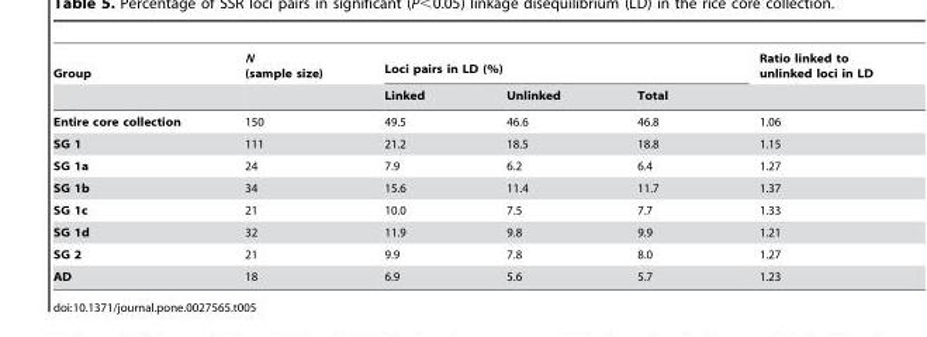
<table><thead><tr><td rowspan="2">Group</td><td rowspan="2">N (sample size)</td><td colspan="3">Loci pairs in LD (%)</td><td rowspan="2">Ratio linked to unlinked loci in LD</td></tr><tr><td>Linked</td><td>Unlinked</td><td>Total</td></tr></thead><tbody><tr><td>Entire core collection</td><td>150</td><td>49.5</td><td>46.6</td><td>46.8</td><td>1.06</td></tr><tr><td>SG 1</td><td>111</td><td>21.2</td><td>18.5</td><td>18.8</td><td>1.15</td></tr><tr><td>SG 1a</td><td>24</td><td>7.9</td><td>6.2</td><td>6.4</td><td>1.27</td></tr><tr><td>SG 1b</td><td>34</td><td>15.6</td><td>11.4</td><td>11.7</td><td>1.37</td></tr><tr><td>SG 1c</td><td>21</td><td>10.0</td><td>7.5</td><td>7.7</td><td>1.33</td></tr><tr><td>SG 1d</td><td>32</td><td>11.9</td><td>9.8</td><td>9.9</td><td>1.21</td></tr><tr><td>SG 2</td><td>21</td><td>9.9</td><td>7.8</td><td>8.0</td><td>1.27</td></tr><tr><td>AD</td><td>18</td><td>6.9</td><td>5.6</td><td>5.7</td><td>1.23</td></tr></tbody></table>